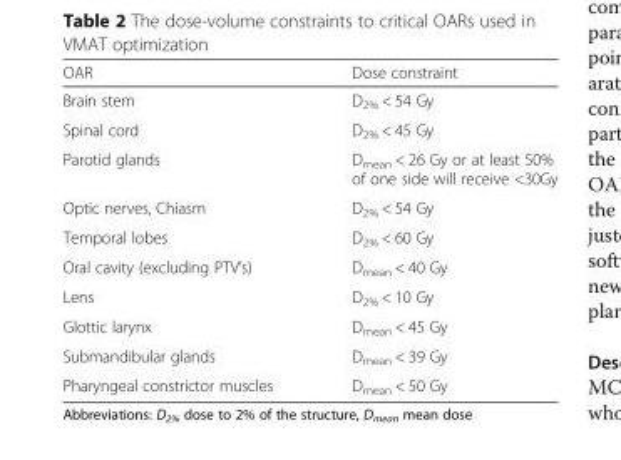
<table><thead><tr><td>OAR</td><td>Dose constraint</td></tr></thead><tbody><tr><td>Brain stem</td><td>D<sub>2%</sub> &lt; 54 Gy</td></tr><tr><td>Spinal cord</td><td>D<sub>2%</sub> &lt; 45 Gy</td></tr><tr><td>Parotid glands</td><td>D<sub>mean</sub> &lt; 26 Gy or at least 50% of one side will receive &lt;30Gy</td></tr><tr><td>Optic nerves, Chiasm</td><td>D<sub>2%</sub> &lt; 54 Gy</td></tr><tr><td>Temporal lobes</td><td>D<sub>2%</sub> &lt; 60 Gy</td></tr><tr><td>Oral cavity (excluding PTV’s)</td><td>D<sub>mean</sub> &lt; 40 Gy</td></tr><tr><td>Lens</td><td>D<sub>2%</sub> &lt; 10 Gy</td></tr><tr><td>Glottic larynx</td><td>D<sub>mean</sub> &lt; 45 Gy</td></tr><tr><td>Submandibular glands</td><td>D<sub>mean</sub> &lt; 39 Gy</td></tr><tr><td>Pharyngeal constrictor muscles</td><td>D<sub>mean</sub> &lt; 50 Gy</td></tr></tbody></table>